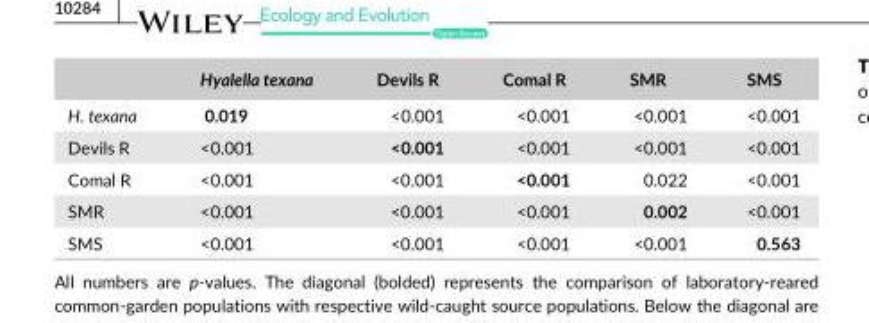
<table><thead><tr><td></td><td>Hyalella texana</td><td>Devils R</td><td>Comal R</td><td>SMR</td><td>SMS</td></tr></thead><tbody><tr><td>H. texana</td><td>0.019</td><td>&lt;0.001</td><td>&lt;0.001</td><td>&lt;0.001</td><td>&lt;0.001</td></tr><tr><td>Devils R</td><td>&lt;0.001</td><td>&lt;0.001</td><td>&lt;0.001</td><td>&lt;0.001</td><td>&lt;0.001</td></tr><tr><td>Comal R</td><td>&lt;0.001</td><td>&lt;0.001</td><td>&lt;0.001</td><td>0.022</td><td>&lt;0.001</td></tr><tr><td>SMR</td><td>&lt;0.001</td><td>&lt;0.001</td><td>&lt;0.001</td><td>0.002</td><td>&lt;0.001</td></tr><tr><td>SMS</td><td>&lt;0.001</td><td>&lt;0.001</td><td>&lt;0.001</td><td>&lt;0.001</td><td>0.563</td></tr></tbody></table>